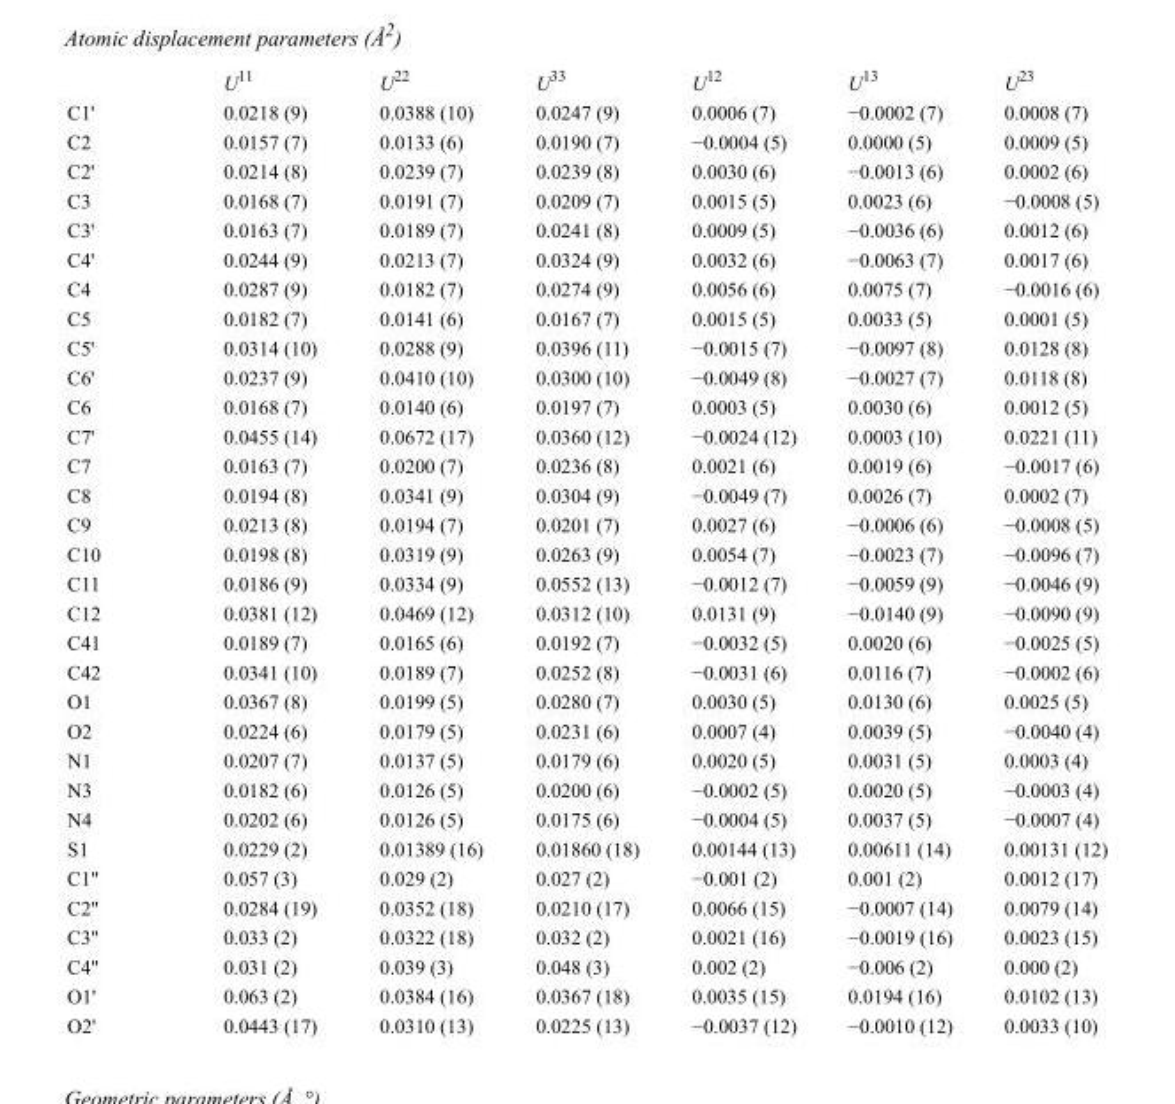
<table><thead><tr><td></td><td>U<sup>11</sup></td><td>U<sup>22</sup></td><td>U<sup>33</sup></td><td>U<sup>12</sup></td><td>U<sup>13</sup></td><td>U<sup>23</sup></td></tr></thead><tbody><tr><td>C1&#x27;</td><td>0.0218 (9)</td><td>0.0388 (10)</td><td>0.0247 (9)</td><td>0.0006 (7)</td><td>−0.0002 (7)</td><td>0.0008 (7)</td></tr><tr><td>C2</td><td>0.0157 (7)</td><td>0.0133 (6)</td><td>0.0190 (7)</td><td>−0.0004 (5)</td><td>0.0000 (5)</td><td>0.0009 (5)</td></tr><tr><td>C2&#x27;</td><td>0.0214 (8)</td><td>0.0239 (7)</td><td>0.0239 (8)</td><td>0.0030 (6)</td><td>−0.0013 (6)</td><td>0.0002 (6)</td></tr><tr><td>C3</td><td>0.0168 (7)</td><td>0.0191 (7)</td><td>0.0209 (7)</td><td>0.0015 (5)</td><td>0.0023 (6)</td><td>−0.0008 (5)</td></tr><tr><td>C3&#x27;</td><td>0.0163 (7)</td><td>0.0189 (7)</td><td>0.0241 (8)</td><td>0.0009 (5)</td><td>−0.0036 (6)</td><td>0.0012 (6)</td></tr><tr><td>C4&#x27;</td><td>0.0244 (9)</td><td>0.0213 (7)</td><td>0.0324 (9)</td><td>0.0032 (6)</td><td>−0.0063 (7)</td><td>0.0017 (6)</td></tr><tr><td>C4</td><td>0.0287 (9)</td><td>0.0182 (7)</td><td>0.0274 (9)</td><td>0.0056 (6)</td><td>0.0075 (7)</td><td>−0.0016 (6)</td></tr><tr><td>C5</td><td>0.0182 (7)</td><td>0.0141 (6)</td><td>0.0167 (7)</td><td>0.0015 (5)</td><td>0.0033 (5)</td><td>0.0001 (5)</td></tr><tr><td>C5&#x27;</td><td>0.0314 (10)</td><td>0.0288 (9)</td><td>0.0396 (11)</td><td>−0.0015 (7)</td><td>−0.0097 (8)</td><td>0.0128 (8)</td></tr><tr><td>C6&#x27;</td><td>0.0237 (9)</td><td>0.0410 (10)</td><td>0.0300 (10)</td><td>−0.0049 (8)</td><td>−0.0027 (7)</td><td>0.0118 (8)</td></tr><tr><td>C6</td><td>0.0168 (7)</td><td>0.0140 (6)</td><td>0.0197 (7)</td><td>0.0003 (5)</td><td>0.0030 (6)</td><td>0.0012 (5)</td></tr><tr><td>C7&#x27;</td><td>0.0455 (14)</td><td>0.0672 (17)</td><td>0.0360 (12)</td><td>−0.0024 (12)</td><td>0.0003 (10)</td><td>0.0221 (11)</td></tr><tr><td>C7</td><td>0.0163 (7)</td><td>0.0200 (7)</td><td>0.0236 (8)</td><td>0.0021 (6)</td><td>0.0019 (6)</td><td>−0.0017 (6)</td></tr><tr><td>C8</td><td>0.0194 (8)</td><td>0.0341 (9)</td><td>0.0304 (9)</td><td>−0.0049 (7)</td><td>0.0026 (7)</td><td>0.0002 (7)</td></tr><tr><td>C9</td><td>0.0213 (8)</td><td>0.0194 (7)</td><td>0.0201 (7)</td><td>0.0027 (6)</td><td>−0.0006 (6)</td><td>−0.0008 (5)</td></tr><tr><td>C10</td><td>0.0198 (8)</td><td>0.0319 (9)</td><td>0.0263 (9)</td><td>0.0054 (7)</td><td>−0.0023 (7)</td><td>−0.0096 (7)</td></tr><tr><td>C11</td><td>0.0186 (9)</td><td>0.0334 (9)</td><td>0.0552 (13)</td><td>−0.0012 (7)</td><td>−0.0059 (9)</td><td>−0.0046 (9)</td></tr><tr><td>C12</td><td>0.0381 (12)</td><td>0.0469 (12)</td><td>0.0312 (10)</td><td>0.0131 (9)</td><td>−0.0140 (9)</td><td>−0.0090 (9)</td></tr><tr><td>C41</td><td>0.0189 (7)</td><td>0.0165 (6)</td><td>0.0192 (7)</td><td>−0.0032 (5)</td><td>0.0020 (6)</td><td>−0.0025 (5)</td></tr><tr><td>C42</td><td>0.0341 (10)</td><td>0.0189 (7)</td><td>0.0252 (8)</td><td>−0.0031 (6)</td><td>0.0116 (7)</td><td>−0.0002 (6)</td></tr><tr><td>O1</td><td>0.0367 (8)</td><td>0.0199 (5)</td><td>0.0280 (7)</td><td>0.0030 (5)</td><td>0.0130 (6)</td><td>0.0025 (5)</td></tr><tr><td>O2</td><td>0.0224 (6)</td><td>0.0179 (5)</td><td>0.0231 (6)</td><td>0.0007 (4)</td><td>0.0039 (5)</td><td>−0.0040 (4)</td></tr><tr><td>N1</td><td>0.0207 (7)</td><td>0.0137 (5)</td><td>0.0179 (6)</td><td>0.0020 (5)</td><td>0.0031 (5)</td><td>0.0003 (4)</td></tr><tr><td>N3</td><td>0.0182 (6)</td><td>0.0126 (5)</td><td>0.0200 (6)</td><td>−0.0002 (5)</td><td>0.0020 (5)</td><td>−0.0003 (4)</td></tr><tr><td>N4</td><td>0.0202 (6)</td><td>0.0126 (5)</td><td>0.0175 (6)</td><td>−0.0004 (5)</td><td>0.0037 (5)</td><td>−0.0007 (4)</td></tr><tr><td>S1</td><td>0.0229 (2)</td><td>0.01389 (16)</td><td>0.01860 (18)</td><td>0.00144 (13)</td><td>0.00611 (14)</td><td>0.00131 (12)</td></tr><tr><td>C1&quot;</td><td>0.057 (3)</td><td>0.029 (2)</td><td>0.027 (2)</td><td>−0.001 (2)</td><td>0.001 (2)</td><td>0.0012 (17)</td></tr><tr><td>C2&quot;</td><td>0.0284 (19)</td><td>0.0352 (18)</td><td>0.0210 (17)</td><td>0.0066 (15)</td><td>−0.0007 (14)</td><td>0.0079 (14)</td></tr><tr><td>C3&quot;</td><td>0.033 (2)</td><td>0.0322 (18)</td><td>0.032 (2)</td><td>0.0021 (16)</td><td>−0.0019 (16)</td><td>0.0023 (15)</td></tr><tr><td>C4&quot;</td><td>0.031 (2)</td><td>0.039 (3)</td><td>0.048 (3)</td><td>0.002 (2)</td><td>−0.006 (2)</td><td>0.000 (2)</td></tr><tr><td>O1&#x27;</td><td>0.063 (2)</td><td>0.0384 (16)</td><td>0.0367 (18)</td><td>0.0035 (15)</td><td>0.0194 (16)</td><td>0.0102 (13)</td></tr><tr><td>O2&#x27;</td><td>0.0443 (17)</td><td>0.0310 (13)</td><td>0.0225 (13)</td><td>−0.0037 (12)</td><td>−0.0010 (12)</td><td>0.0033 (10)</td></tr></tbody></table>